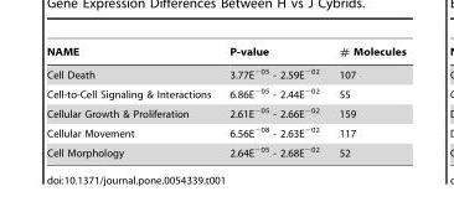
<table><thead><tr><td>NAME</td><td>P-value</td><td># Molecules</td></tr></thead><tbody><tr><td>Cell Death</td><td>3.77E<sup>−05</sup> - 2.59E<sup>−02</sup></td><td>107</td></tr><tr><td>Cell-to-Cell Signaling &amp; Interactions</td><td>6.86E<sup>−05</sup> - 2.44E<sup>−02</sup></td><td>55</td></tr><tr><td>Cellular Growth &amp; Proliferation</td><td>2.61E<sup>−05</sup> - 2.66E<sup>−02</sup></td><td>159</td></tr><tr><td>Cellular Movement</td><td>6.56E<sup>−08</sup> - 2.63E<sup>−02</sup></td><td>117</td></tr><tr><td>Cell Morphology</td><td>2.64E<sup>−05</sup> - 2.68E<sup>−02</sup></td><td>52</td></tr></tbody></table>